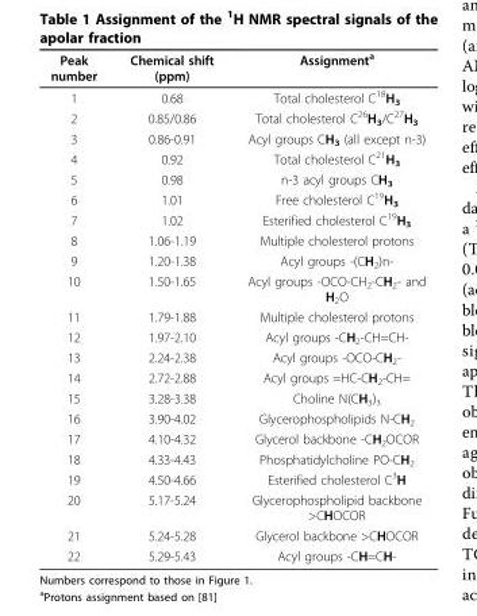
<table><thead><tr><td>Peak number</td><td>Chemical shift (ppm)</td><td>Assignment<sup>a</sup></td></tr></thead><tbody><tr><td>1</td><td>0.68</td><td>Total cholesterol C<sup>18</sup>H<sub>3</sub></td></tr><tr><td>2</td><td>0.85/0.86</td><td>Total cholesterol C<sup>26</sup>H<sub>3</sub>/C<sup>27</sup>H<sub>3</sub></td></tr><tr><td>3</td><td>0.86-0.91</td><td>Acyl groups CH<sub>3</sub> (all except n-3)</td></tr><tr><td>4</td><td>0.92</td><td>Total cholesterol C<sup>21</sup>H<sub>3</sub></td></tr><tr><td>5</td><td>0.98</td><td>n-3 acyl groups CH<sub>3</sub></td></tr><tr><td>6</td><td>1.01</td><td>Free cholesterol C<sup>19</sup>H<sub>3</sub></td></tr><tr><td>7</td><td>1.02</td><td>Esterified cholesterol C<sup>19</sup>H<sub>3</sub></td></tr><tr><td>8</td><td>1.06-1.19</td><td>Multiple cholesterol protons</td></tr><tr><td>9</td><td>1.20-1.38</td><td>Acyl groups -(CH<sub>2</sub>)n-</td></tr><tr><td>10</td><td>1.50-1.65</td><td>Acyl groups -OCO-CH<sub>2</sub>-CH<sub>2</sub>- and H<sub>2</sub>O</td></tr><tr><td>11</td><td>1.79-1.88</td><td>Multiple cholesterol protons</td></tr><tr><td>12</td><td>1.97-2.10</td><td>Acyl groups -CH<sub>2</sub>-CH=CH-</td></tr><tr><td>13</td><td>2.24-2.38</td><td>Acyl groups -OCO-CH<sub>2</sub>-</td></tr><tr><td>14</td><td>2.72-2.88</td><td>Acyl groups =HC-CH<sub>2</sub>-CH=</td></tr><tr><td>15</td><td>3.28-3.38</td><td>Choline N(CH<sub>3</sub>)<sub>3</sub></td></tr><tr><td>16</td><td>3.90-4.02</td><td>Glycerophospholipids N-CH<sub>2</sub></td></tr><tr><td>17</td><td>4.10-4.32</td><td>Glycerol backbone -CH<sub>2</sub>OCOR</td></tr><tr><td>18</td><td>4.33-4.43</td><td>Phosphatidylcholine PO-CH<sub>2</sub></td></tr><tr><td>19</td><td>4.50-4.66</td><td>Esterified cholesterol C<sup>3</sup>H</td></tr><tr><td>20</td><td>5.17-5.24</td><td>Glycerophospholipid backbone &gt;CHOCOR</td></tr><tr><td>21</td><td>5.24-5.28</td><td>Glycerol backbone &gt;CHOCOR</td></tr><tr><td>22</td><td>5.29-5.43</td><td>Acyl groups -CH=CH-</td></tr></tbody></table>